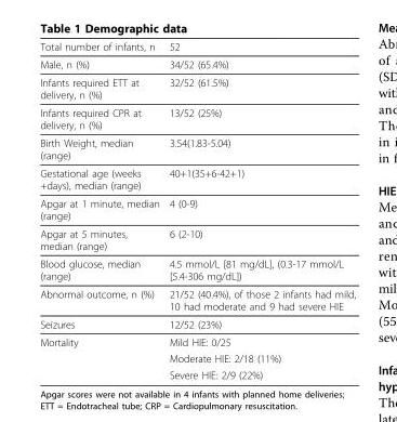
<table><thead><tr><td>Total number of infants, n</td><td>52</td></tr></thead><tbody><tr><td>Male, n (%)</td><td>34/52 (65.4%)</td></tr><tr><td>Infants required ETT at delivery, n (%)</td><td>32/52 (61.5%)</td></tr><tr><td>Infants required CPR at delivery, n (%)</td><td>13/52 (25%)</td></tr><tr><td>Birth Weight, median (range)</td><td>3.54(1.83-5.04)</td></tr><tr><td>Gestational age (weeks +days), median (range)</td><td>40+1(35+6-42+1)</td></tr><tr><td>Apgar at 1 minute, median (range)</td><td>4 (0-9)</td></tr><tr><td>Apgar at 5 minutes, median (range)</td><td>6 (2-10)</td></tr><tr><td>Blood glucose, median (range)</td><td>4.5 mmol/L [81 mg/dL], (0.3-17 mmol/L [5.4-306 mg/dL])</td></tr><tr><td>Abnormal outcome, n (%)</td><td>21/52 (40.4%), of those 2 infants had mild, 10 had moderate and 9 had severe HIE</td></tr><tr><td>Seizures</td><td>12/52 (23%)</td></tr><tr><td rowspan="3">Mortality</td><td>Mild HIE: 0/25</td></tr><tr><td>Moderate HIE: 2/18 (11%)</td></tr><tr><td>Severe HIE: 2/9 (22%)</td></tr></tbody></table>